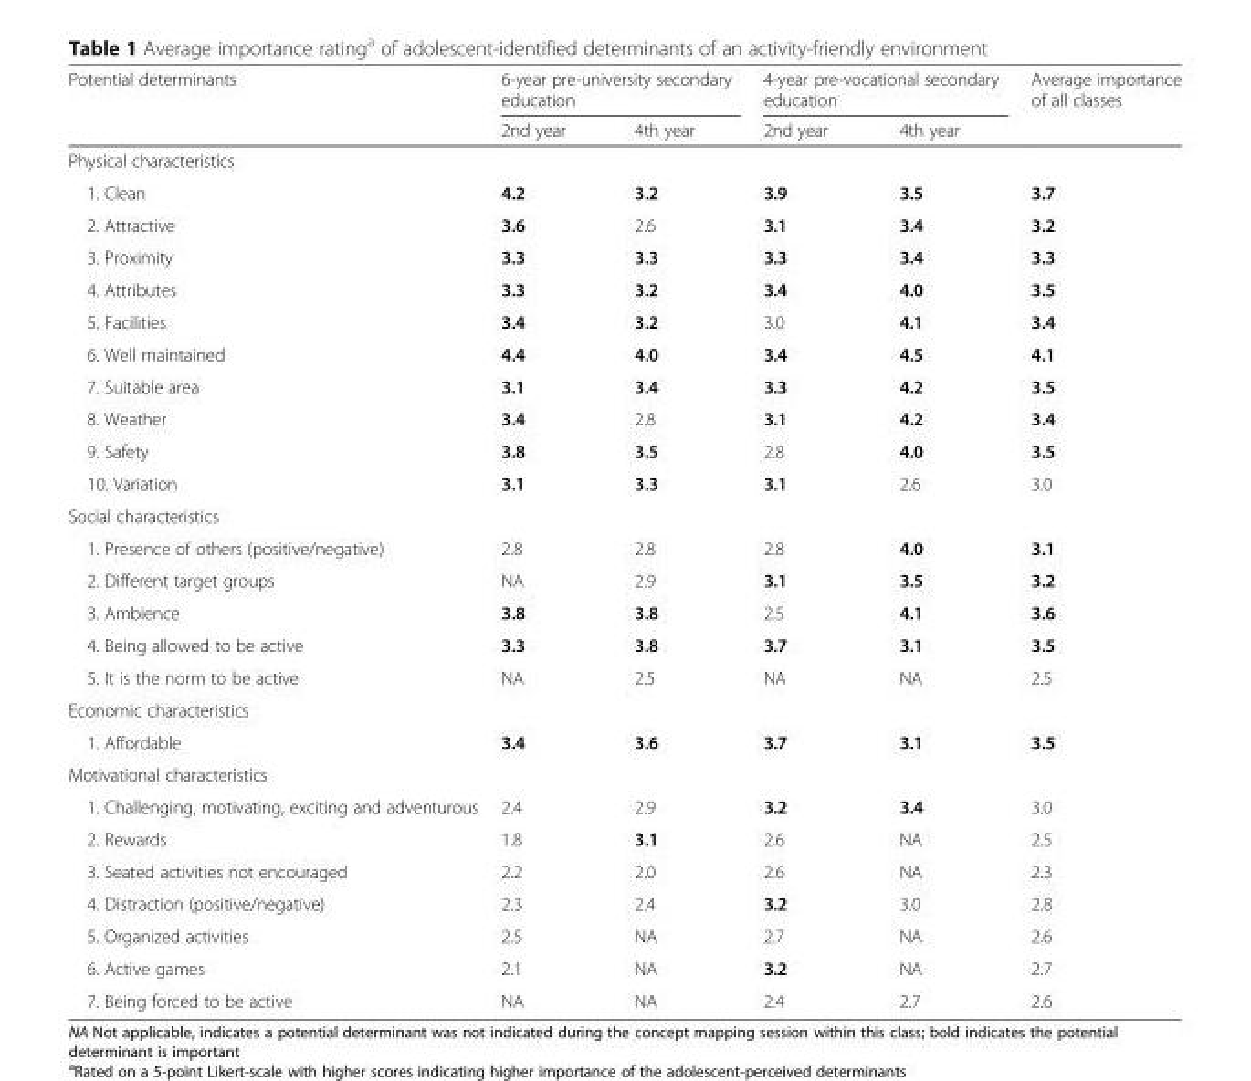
<table><thead><tr><td rowspan="2">Potential determinants</td><td colspan="2">6-year pre-university secondary education</td><td colspan="2">4-year pre-vocational secondary education</td><td rowspan="2">Average importance of all classes</td></tr><tr><td>2nd year</td><td>4th year</td><td>2nd year</td><td>4th year</td></tr></thead><tbody><tr><td colspan="6">Physical characteristics</td></tr><tr><td>1. Clean</td><td>4.2</td><td>3.2</td><td>3.9</td><td>3.5</td><td>3.7</td></tr><tr><td>2. Attractive</td><td>3.6</td><td>2.6</td><td>3.1</td><td>3.4</td><td>3.2</td></tr><tr><td>3. Proximity</td><td>3.3</td><td>3.3</td><td>3.3</td><td>3.4</td><td>3.3</td></tr><tr><td>4. Attributes</td><td>3.3</td><td>3.2</td><td>3.4</td><td>4.0</td><td>3.5</td></tr><tr><td>5. Facilities</td><td>3.4</td><td>3.2</td><td>3.0</td><td>4.1</td><td>3.4</td></tr><tr><td>6. Well maintained</td><td>4.4</td><td>4.0</td><td>3.4</td><td>4.5</td><td>4.1</td></tr><tr><td>7. Suitable area</td><td>3.1</td><td>3.4</td><td>3.3</td><td>4.2</td><td>3.5</td></tr><tr><td>8. Weather</td><td>3.4</td><td>2.8</td><td>3.1</td><td>4.2</td><td>3.4</td></tr><tr><td>9. Safety</td><td>3.8</td><td>3.5</td><td>2.8</td><td>4.0</td><td>3.5</td></tr><tr><td>10. Variation</td><td>3.1</td><td>3.3</td><td>3.1</td><td>2.6</td><td>3.0</td></tr><tr><td colspan="6">Social characteristics</td></tr><tr><td>1. Presence of others (positive/negative)</td><td>2.8</td><td>2.8</td><td>2.8</td><td>4.0</td><td>3.1</td></tr><tr><td>2. Different target groups</td><td>NA</td><td>2.9</td><td>3.1</td><td>3.5</td><td>3.2</td></tr><tr><td>3. Ambience</td><td>3.8</td><td>3.8</td><td>2.5</td><td>4.1</td><td>3.6</td></tr><tr><td>4. Being allowed to be active</td><td>3.3</td><td>3.8</td><td>3.7</td><td>3.1</td><td>3.5</td></tr><tr><td>5. It is the norm to be active</td><td>NA</td><td>2.5</td><td>NA</td><td>NA</td><td>2.5</td></tr><tr><td colspan="6">Economic characteristics</td></tr><tr><td>1. Affordable</td><td>3.4</td><td>3.6</td><td>3.7</td><td>3.1</td><td>3.5</td></tr><tr><td colspan="6">Motivational characteristics</td></tr><tr><td>1. Challenging, motivating, exciting and adventurous</td><td>2.4</td><td>2.9</td><td>3.2</td><td>3.4</td><td>3.0</td></tr><tr><td>2. Rewards</td><td>1.8</td><td>3.1</td><td>2.6</td><td>NA</td><td>2.5</td></tr><tr><td>3. Seated activities not encouraged</td><td>2.2</td><td>2.0</td><td>2.6</td><td>NA</td><td>2.3</td></tr><tr><td>4. Distraction (positive/negative)</td><td>2.3</td><td>2.4</td><td>3.2</td><td>3.0</td><td>2.8</td></tr><tr><td>5. Organized activities</td><td>2.5</td><td>NA</td><td>2.7</td><td>NA</td><td>2.6</td></tr><tr><td>6. Active games</td><td>2.1</td><td>NA</td><td>3.2</td><td>NA</td><td>2.7</td></tr><tr><td>7. Being forced to be active</td><td>NA</td><td>NA</td><td>2.4</td><td>2.7</td><td>2.6</td></tr></tbody></table>